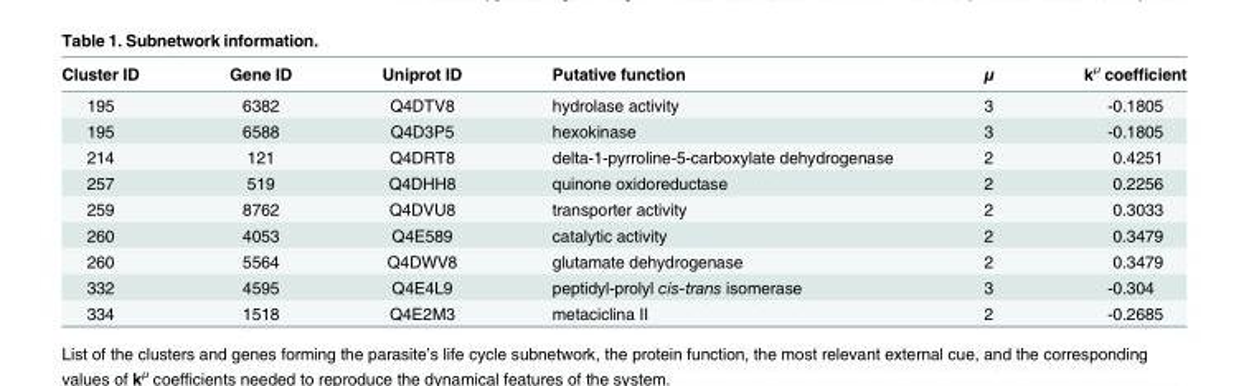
<table><thead><tr><td>Cluster ID</td><td>Gene ID</td><td>Uniprot ID</td><td>Putative function</td><td>μ</td><td>k<sup>μ</sup> coefficient</td></tr></thead><tbody><tr><td>195</td><td>6382</td><td>Q4DTV8</td><td>hydrolase activity</td><td>3</td><td>-0.1805</td></tr><tr><td>195</td><td>6588</td><td>Q4D3P5</td><td>hexokinase</td><td>3</td><td>-0.1805</td></tr><tr><td>214</td><td>121</td><td>Q4DRT8</td><td>delta-1-pyrroline-5-carboxylate dehydrogenase</td><td>2</td><td>0.4251</td></tr><tr><td>257</td><td>519</td><td>Q4DHH8</td><td>quinone oxidoreductase</td><td>2</td><td>0.2256</td></tr><tr><td>259</td><td>8762</td><td>Q4DVU8</td><td>transporter activity</td><td>2</td><td>0.3033</td></tr><tr><td>260</td><td>4053</td><td>Q4E589</td><td>catalytic activity</td><td>2</td><td>0.3479</td></tr><tr><td>260</td><td>5564</td><td>Q4DWV8</td><td>glutamate dehydrogenase</td><td>2</td><td>0.3479</td></tr><tr><td>332</td><td>4595</td><td>Q4E4L9</td><td>peptidyl-prolyl cis-trans isomerase</td><td>3</td><td>-0.304</td></tr><tr><td>334</td><td>1518</td><td>Q4E2M3</td><td>metaciclina II</td><td>2</td><td>-0.2685</td></tr></tbody></table>